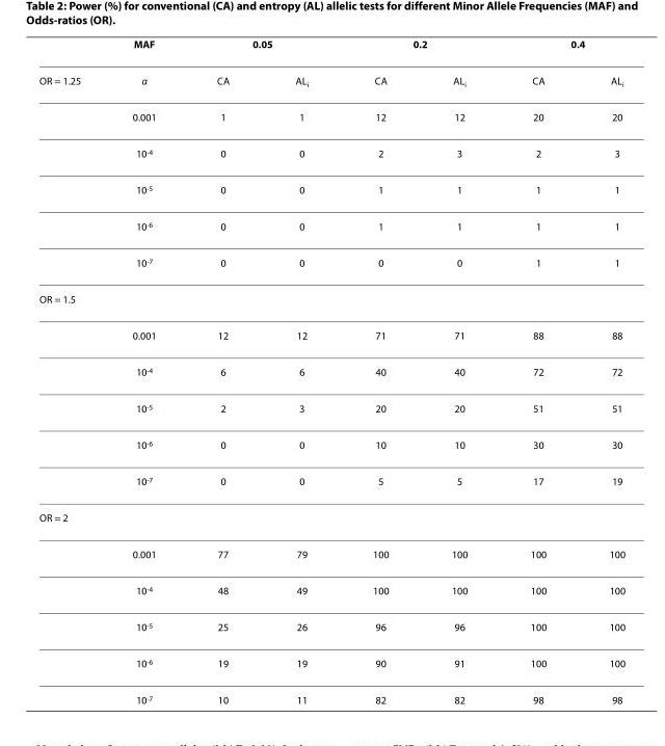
<table><thead><tr><td rowspan="2">OR = 1.25</td><td rowspan="2">MAF α</td><td colspan="2">0.05</td><td colspan="2">0.2</td><td colspan="2">0.4</td></tr><tr><td>CA</td><td>AL<sub>i</sub></td><td>CA</td><td>AL<sub>i</sub></td><td>CA</td><td>AL<sub>i</sub></td></tr></thead><tbody><tr><td></td><td>0.001</td><td>1</td><td>1</td><td>12</td><td>12</td><td>20</td><td>20</td></tr><tr><td></td><td>10<sup>-4</sup></td><td>0</td><td>0</td><td>2</td><td>3</td><td>2</td><td>3</td></tr><tr><td></td><td>10<sup>-5</sup></td><td>0</td><td>0</td><td>1</td><td>1</td><td>1</td><td>1</td></tr><tr><td></td><td>10<sup>-6</sup></td><td>0</td><td>0</td><td>1</td><td>1</td><td>1</td><td>1</td></tr><tr><td></td><td>10<sup>-7</sup></td><td>0</td><td>0</td><td>0</td><td>0</td><td>1</td><td>1</td></tr><tr><td colspan="8">OR = 1.5</td></tr><tr><td></td><td>0.001</td><td>12</td><td>12</td><td>71</td><td>71</td><td>88</td><td>88</td></tr><tr><td></td><td>10<sup>-4</sup></td><td>6</td><td>6</td><td>40</td><td>40</td><td>72</td><td>72</td></tr><tr><td></td><td>10<sup>-5</sup></td><td>2</td><td>3</td><td>20</td><td>20</td><td>51</td><td>51</td></tr><tr><td></td><td>10<sup>-6</sup></td><td>0</td><td>0</td><td>10</td><td>10</td><td>30</td><td>30</td></tr><tr><td></td><td>10<sup>-7</sup></td><td>0</td><td>0</td><td>5</td><td>5</td><td>17</td><td>19</td></tr><tr><td colspan="8">OR = 2</td></tr><tr><td></td><td>0.001</td><td>77</td><td>79</td><td>100</td><td>100</td><td>100</td><td>100</td></tr><tr><td></td><td>10<sup>-4</sup></td><td>48</td><td>49</td><td>100</td><td>100</td><td>100</td><td>100</td></tr><tr><td></td><td>10<sup>-5</sup></td><td>25</td><td>26</td><td>96</td><td>96</td><td>100</td><td>100</td></tr><tr><td></td><td>10<sup>-6</sup></td><td>19</td><td>19</td><td>90</td><td>91</td><td>100</td><td>100</td></tr><tr><td></td><td>10<sup>-7</sup></td><td>10</td><td>11</td><td>82</td><td>82</td><td>98</td><td>98</td></tr></tbody></table>